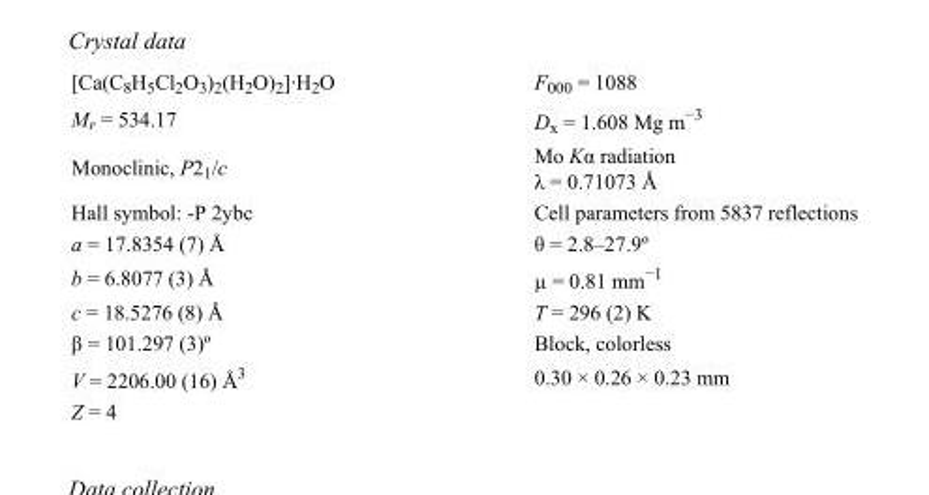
<table><tbody><tr><td>[Ca(C<sub>8</sub>H<sub>5</sub>Cl<sub>2</sub>O<sub>3</sub>)<sub>2</sub>(H<sub>2</sub>O)<sub>2</sub>]·H<sub>2</sub>O</td><td>F<sub>000</sub> = 1088</td></tr><tr><td>M<sub>r</sub> = 534.17</td><td>D<sub>x</sub> = 1.608 Mg m<sup>−3</sup></td></tr><tr><td>Monoclinic, P2<sub>1</sub>/c</td><td>Mo Kα radiation λ = 0.71073 Å</td></tr><tr><td>Hall symbol: -P 2ybc</td><td>Cell parameters from 5837 reflections</td></tr><tr><td>a = 17.8354 (7) Å</td><td>θ = 2.8–27.9º</td></tr><tr><td>b = 6.8077 (3) Å</td><td>µ = 0.81 mm<sup>−1</sup></td></tr><tr><td>c = 18.5276 (8) Å</td><td>T = 296 (2) K</td></tr><tr><td>β = 101.297 (3)º</td><td>Block, colorless</td></tr><tr><td>V = 2206.00 (16) Å<sup>3</sup></td><td>0.30 × 0.26 × 0.23 mm</td></tr><tr><td>Z = 4</td><td></td></tr></tbody></table>